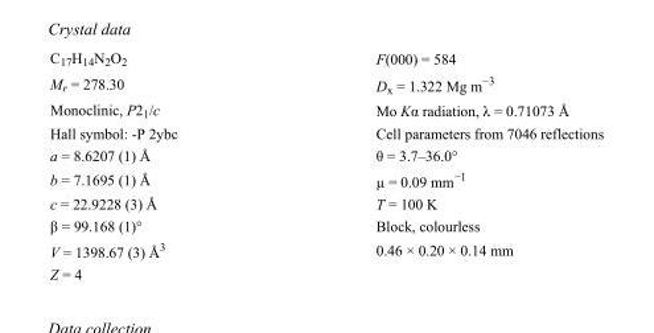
<table><tbody><tr><td>C<sub>17</sub>H<sub>14</sub>N<sub>2</sub>O<sub>2</sub></td><td>F(000) = 584</td></tr><tr><td>M<sub>r</sub> = 278.30</td><td>D<sub>x</sub> = 1.322 Mg m<sup>−3</sup></td></tr><tr><td>Monoclinic, P2<sub>1</sub>/c</td><td>Mo Kα radiation, λ = 0.71073 Å</td></tr><tr><td>Hall symbol: -P 2ybc</td><td>Cell parameters from 7046 reflections</td></tr><tr><td>a = 8.6207 (1) Å</td><td>θ = 3.7–36.0°</td></tr><tr><td>b = 7.1695 (1) Å</td><td>µ = 0.09 mm<sup>−1</sup></td></tr><tr><td>c = 22.9228 (3) Å</td><td>T = 100 K</td></tr><tr><td>β = 99.168 (1)°</td><td>Block, colourless</td></tr><tr><td>V = 1398.67 (3) Å<sup>3</sup></td><td>0.46 × 0.20 × 0.14 mm</td></tr><tr><td>Z = 4</td><td></td></tr></tbody></table>